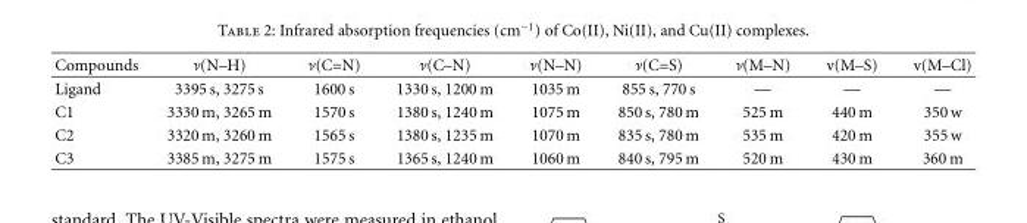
<table><thead><tr><td>Compounds</td><td>ν(N–H)</td><td>ν(C=N)</td><td>ν(C–N)</td><td>ν(N–N)</td><td>ν(C=S)</td><td>ν(M–N)</td><td>v(M–S)</td><td>v(M–Cl)</td></tr></thead><tbody><tr><td>Ligand</td><td>3395 s, 3275 s</td><td>1600 s</td><td>1330 s, 1200 m</td><td>1035 m</td><td>855 s, 770 s</td><td>—</td><td>—</td><td>—</td></tr><tr><td>C1</td><td>3330 m, 3265 m</td><td>1570 s</td><td>1380 s, 1240 m</td><td>1075 m</td><td>850 s, 780 m</td><td>525 m</td><td>440 m</td><td>350 w</td></tr><tr><td>C2</td><td>3320 m, 3260 m</td><td>1565 s</td><td>1380 s, 1235 m</td><td>1070 m</td><td>835 s, 780 m</td><td>535 m</td><td>420 m</td><td>355 w</td></tr><tr><td>C3</td><td>3385 m, 3275 m</td><td>1575 s</td><td>1365 s, 1240 m</td><td>1060 m</td><td>840 s, 795 m</td><td>520 m</td><td>430 m</td><td>360 m</td></tr></tbody></table>